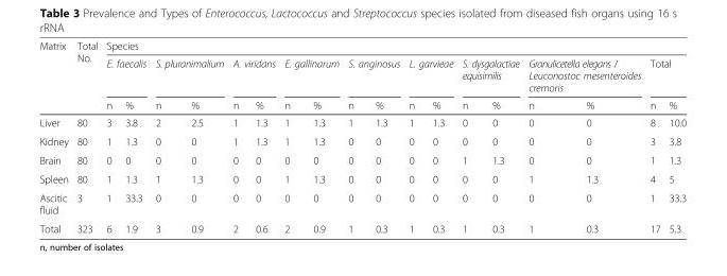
<table><thead><tr><td rowspan="3">Matrix</td><td rowspan="3">Total No.</td><td colspan="18">Species</td></tr><tr><td colspan="2">E. faecalis</td><td colspan="2">S. pluranimalium</td><td colspan="2">A. viridans</td><td colspan="2">E. gallinarum</td><td colspan="2">S. anginosus</td><td colspan="2">L. garvieae</td><td colspan="2">S. dysgalactiae equisimilis</td><td colspan="2">Granulicetella elegans / Leuconostoc mesenteroides cremoris</td><td colspan="2">Total</td></tr><tr><td>n</td><td>%</td><td>n</td><td>%</td><td>n</td><td>%</td><td>n</td><td>%</td><td>n</td><td>%</td><td>n</td><td>%</td><td>n</td><td>%</td><td>n</td><td>%</td><td>n</td><td>%</td></tr></thead><tbody><tr><td>Liver</td><td>80</td><td>3</td><td>3.8</td><td>2</td><td>2.5</td><td>1</td><td>1.3</td><td>1</td><td>1.3</td><td>1</td><td>1.3</td><td>1</td><td>1.3</td><td>0</td><td>0</td><td>0</td><td>0</td><td>8</td><td>10.0</td></tr><tr><td>Kidney</td><td>80</td><td>1</td><td>1.3</td><td>0</td><td>0</td><td>1</td><td>1.3</td><td>1</td><td>1.3</td><td>0</td><td>0</td><td>0</td><td>0</td><td>0</td><td>0</td><td>0</td><td>0</td><td>3</td><td>3.8</td></tr><tr><td>Brain</td><td>80</td><td>0</td><td>0</td><td>0</td><td>0</td><td>0</td><td>0</td><td>0</td><td>0</td><td>0</td><td>0</td><td>0</td><td>0</td><td>1</td><td>1.3</td><td>0</td><td>0</td><td>1</td><td>1.3</td></tr><tr><td>Spleen</td><td>80</td><td>1</td><td>1.3</td><td>1</td><td>1.3</td><td>0</td><td>0</td><td>1</td><td>1.3</td><td>0</td><td>0</td><td>0</td><td>0</td><td>0</td><td>0</td><td>1</td><td>1.3</td><td>4</td><td>5</td></tr><tr><td>Ascitic fluid</td><td>3</td><td>1</td><td>33.3</td><td>0</td><td>0</td><td>0</td><td>0</td><td>0</td><td>0</td><td>0</td><td>0</td><td>0</td><td>0</td><td>0</td><td>0</td><td>0</td><td>0</td><td>1</td><td>33.3</td></tr><tr><td>Total</td><td>323</td><td>6</td><td>1.9</td><td>3</td><td>0.9</td><td>2</td><td>0.6</td><td>2</td><td>0.9</td><td>1</td><td>0.3</td><td>1</td><td>0.3</td><td>1</td><td>0.3</td><td>1</td><td>0.3</td><td>17</td><td>5.3</td></tr></tbody></table>